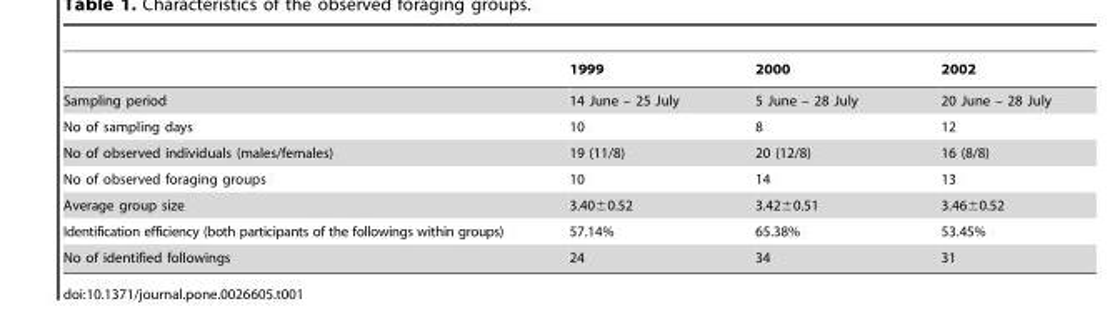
<table><thead><tr><td></td><td>1999</td><td>2000</td><td>2002</td></tr></thead><tbody><tr><td>Sampling period</td><td>14 June – 25 July</td><td>5 June – 28 July</td><td>20 June – 28 July</td></tr><tr><td>No of sampling days</td><td>10</td><td>8</td><td>12</td></tr><tr><td>No of observed individuals (males/females)</td><td>19 (11/8)</td><td>20 (12/8)</td><td>16 (8/8)</td></tr><tr><td>No of observed foraging groups</td><td>10</td><td>14</td><td>13</td></tr><tr><td>Average group size</td><td>3.40±0.52</td><td>3.42±0.51</td><td>3.46±0.52</td></tr><tr><td>Identification efficiency (both participants of the followings within groups)</td><td>57.14%</td><td>65.38%</td><td>53.45%</td></tr><tr><td>No of identified followings</td><td>24</td><td>34</td><td>31</td></tr></tbody></table>